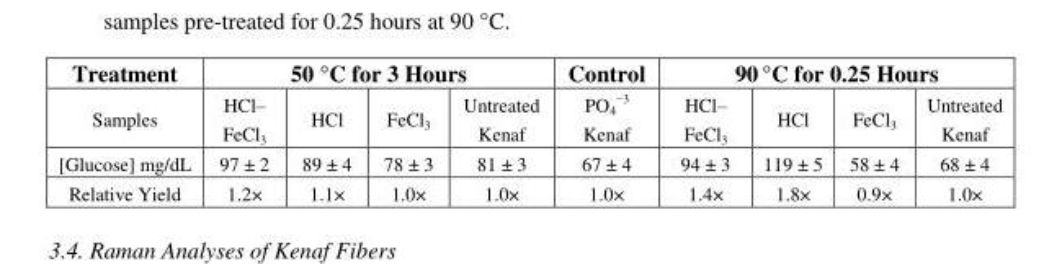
<table><thead><tr><td rowspan="2">Treatment Samples</td><td colspan="4">50 °C for 3 Hours</td><td rowspan="2">Control PO<sub>4</sub> <sup>−3</sup> Kenaf</td><td colspan="4">90 °C for 0.25 Hours</td></tr><tr><td>HCl– FeCl<sub>3</sub></td><td>HCl</td><td>FeCl<sub>3</sub></td><td>Untreated Kenaf</td><td>HCl– FeCl<sub>3</sub></td><td>HCl</td><td>FeCl<sub>3</sub></td><td>Untreated Kenaf</td></tr></thead><tbody><tr><td>[Glucose] mg/dL</td><td>97 ± 2</td><td>89 ± 4</td><td>78 ± 3</td><td>81 ± 3</td><td>67 ± 4</td><td>94 ± 3</td><td>119 ± 5</td><td>58 ± 4</td><td>68 ± 4</td></tr><tr><td>Relative Yield</td><td>1.2×</td><td>1.1×</td><td>1.0×</td><td>1.0×</td><td>1.0×</td><td>1.4×</td><td>1.8×</td><td>0.9×</td><td>1.0×</td></tr></tbody></table>